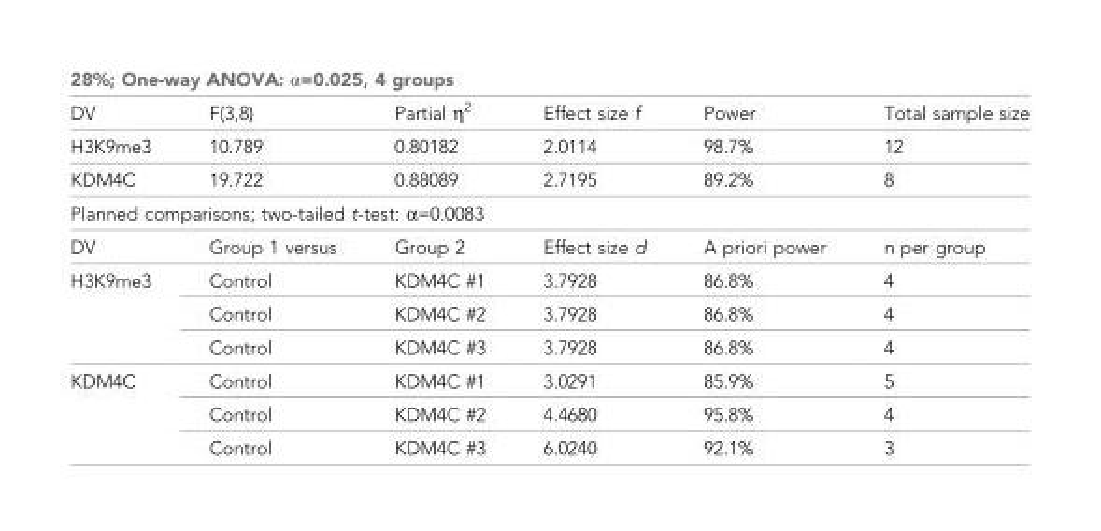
<table><thead><tr><td colspan="6">28%; One-way ANOVA: α=0.025, 4 groups</td></tr><tr><td>DV</td><td>F(3,8)</td><td>Partial η<sup>2</sup></td><td>Effect size f</td><td>Power</td><td>Total sample size</td></tr></thead><tbody><tr><td>H3K9me3</td><td>10.789</td><td>0.80182</td><td>2.0114</td><td>98.7%</td><td>12</td></tr><tr><td>KDM4C</td><td>19.722</td><td>0.88089</td><td>2.7195</td><td>89.2%</td><td>8</td></tr><tr><td colspan="6">Planned comparisons; two-tailed t-test: α=0.0083</td></tr><tr><td>DV</td><td>Group 1 versus</td><td>Group 2</td><td>Effect size d</td><td>A priori power</td><td>n per group</td></tr><tr><td rowspan="3">H3K9me3</td><td>Control</td><td>KDM4C #1</td><td>3.7928</td><td>86.8%</td><td>4</td></tr><tr><td>Control</td><td>KDM4C #2</td><td>3.7928</td><td>86.8%</td><td>4</td></tr><tr><td>Control</td><td>KDM4C #3</td><td>3.7928</td><td>86.8%</td><td>4</td></tr><tr><td rowspan="3">KDM4C</td><td>Control</td><td>KDM4C #1</td><td>3.0291</td><td>85.9%</td><td>5</td></tr><tr><td>Control</td><td>KDM4C #2</td><td>4.4680</td><td>95.8%</td><td>4</td></tr><tr><td>Control</td><td>KDM4C #3</td><td>6.0240</td><td>92.1%</td><td>3</td></tr></tbody></table>